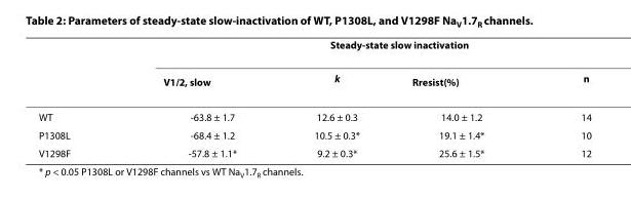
<table><thead><tr><td rowspan="2"></td><td colspan="4">Steady-state slow inactivation</td></tr><tr><td>V<sub>1/2, slow</sub></td><td>k</td><td>R<sub>resist</sub>(%)</td><td>n</td></tr></thead><tbody><tr><td>WT</td><td>-63.8 ± 1.7</td><td>12.6 ± 0.3</td><td>14.0 ± 1.2</td><td>14</td></tr><tr><td>P1308L</td><td>-68.4 ± 1.2</td><td>10.5 ± 0.3*</td><td>19.1 ± 1.4*</td><td>10</td></tr><tr><td>V1298F</td><td>-57.8 ± 1.1*</td><td>9.2 ± 0.3*</td><td>25.6 ± 1.5*</td><td>12</td></tr></tbody></table>